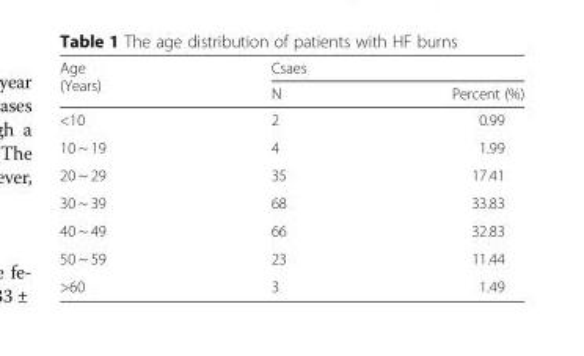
<table><thead><tr><td rowspan="2">Age (Years)</td><td colspan="2">Csaes</td></tr><tr><td>N</td><td>Percent (%)</td></tr></thead><tbody><tr><td>&lt;10</td><td>2</td><td>0.99</td></tr><tr><td>10 ~ 19</td><td>4</td><td>1.99</td></tr><tr><td>20 ~ 29</td><td>35</td><td>17.41</td></tr><tr><td>30 ~ 39</td><td>68</td><td>33.83</td></tr><tr><td>40 ~ 49</td><td>66</td><td>32.83</td></tr><tr><td>50 ~ 59</td><td>23</td><td>11.44</td></tr><tr><td>&gt;60</td><td>3</td><td>1.49</td></tr></tbody></table>